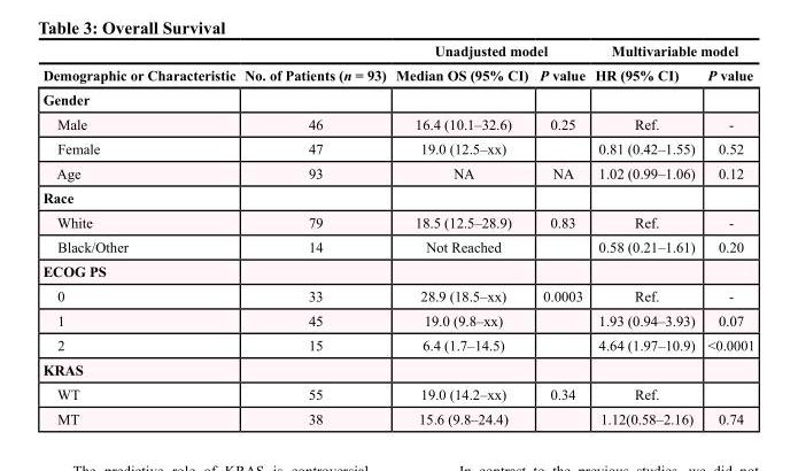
<table><thead><tr><td rowspan="2">Demographic or Characteristic</td><td rowspan="2">No. of Patients (n = 93)</td><td colspan="2">Unadjusted model</td><td colspan="2">Multivariable model</td></tr><tr><td>Median OS (95% CI)</td><td>P value</td><td>HR (95% CI)</td><td>P value</td></tr></thead><tbody><tr><td colspan="6">Gender</td></tr><tr><td>Male</td><td>46</td><td>16.4 (10.1–32.6)</td><td>0.25</td><td>Ref.</td><td>-</td></tr><tr><td>Female</td><td>47</td><td>19.0 (12.5–xx)</td><td></td><td>0.81 (0.42–1.55)</td><td>0.52</td></tr><tr><td>Age</td><td>93</td><td>NA</td><td>NA</td><td>1.02 (0.99–1.06)</td><td>0.12</td></tr><tr><td colspan="6">Race</td></tr><tr><td>White</td><td>79</td><td>18.5 (12.5–28.9)</td><td>0.83</td><td>Ref.</td><td>-</td></tr><tr><td>Black/Other</td><td>14</td><td>Not Reached</td><td></td><td>0.58 (0.21–1.61)</td><td>0.20</td></tr><tr><td colspan="6">ECOG PS</td></tr><tr><td>0</td><td>33</td><td>28.9 (18.5–xx)</td><td>0.0003</td><td>Ref.</td><td>-</td></tr><tr><td>1</td><td>45</td><td>19.0 (9.8–xx)</td><td></td><td>1.93 (0.94–3.93)</td><td>0.07</td></tr><tr><td>2</td><td>15</td><td>6.4 (1.7–14.5)</td><td></td><td>4.64 (1.97–10.9)</td><td>&lt;0.0001</td></tr><tr><td colspan="6">KRAS</td></tr><tr><td>WT</td><td>55</td><td>19.0 (14.2–xx)</td><td>0.34</td><td>Ref.</td><td></td></tr><tr><td>MT</td><td>38</td><td>15.6 (9.8–24.4)</td><td></td><td>1.12(0.58–2.16)</td><td>0.74</td></tr></tbody></table>